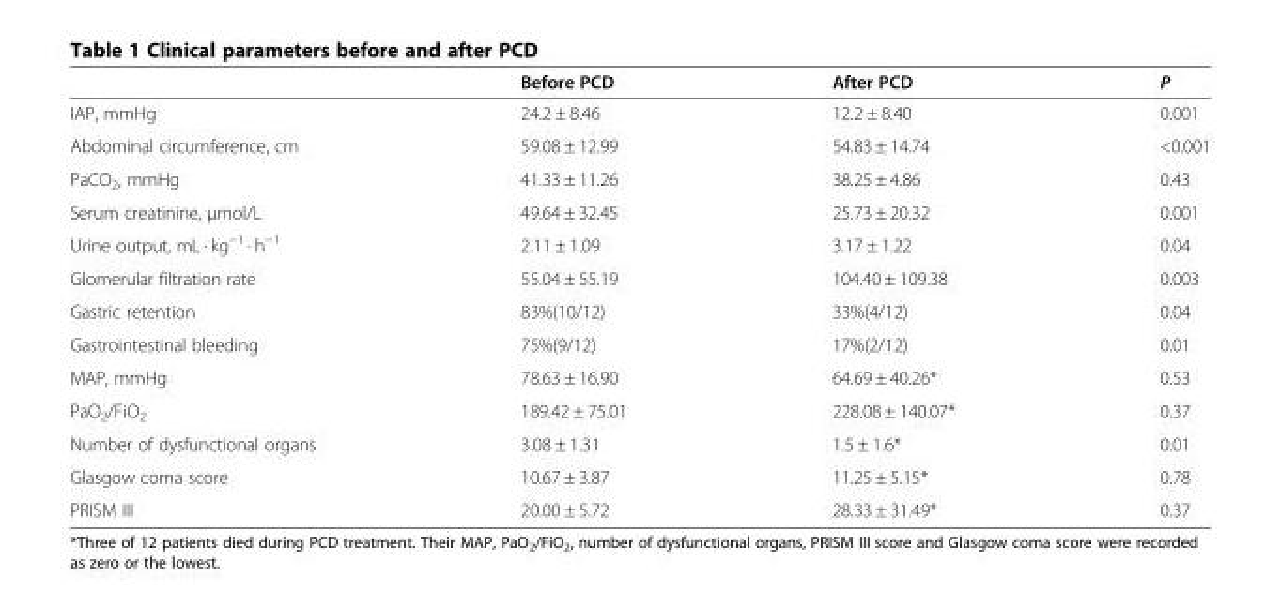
<table><thead><tr><td></td><td>Before PCD</td><td>After PCD</td><td>P</td></tr></thead><tbody><tr><td>IAP, mmHg</td><td>24.2 ± 8.46</td><td>12.2 ± 8.40</td><td>0.001</td></tr><tr><td>Abdominal circumference, cm</td><td>59.08 ± 12.99</td><td>54.83 ± 14.74</td><td>&lt;0.001</td></tr><tr><td>PaCO<sub>2</sub>, mmHg</td><td>41.33 ± 11.26</td><td>38.25 ± 4.86</td><td>0.43</td></tr><tr><td>Serum creatinine, μmol/L</td><td>49.64 ± 32.45</td><td>25.73 ± 20.32</td><td>0.001</td></tr><tr><td>Urine output, mL · kg<sup>−1</sup> · h<sup>−1</sup></td><td>2.11 ± 1.09</td><td>3.17 ± 1.22</td><td>0.04</td></tr><tr><td>Glomerular filtration rate</td><td>55.04 ± 55.19</td><td>104.40 ± 109.38</td><td>0.003</td></tr><tr><td>Gastric retention</td><td>83%(10/12)</td><td>33%(4/12)</td><td>0.04</td></tr><tr><td>Gastrointestinal bleeding</td><td>75%(9/12)</td><td>17%(2/12)</td><td>0.01</td></tr><tr><td>MAP, mmHg</td><td>78.63 ± 16.90</td><td>64.69 ± 40.26*</td><td>0.53</td></tr><tr><td>PaO<sub>2</sub>/FiO<sub>2</sub></td><td>189.42 ± 75.01</td><td>228.08 ± 140.07*</td><td>0.37</td></tr><tr><td>Number of dysfunctional organs</td><td>3.08 ± 1.31</td><td>1.5 ± 1.6*</td><td>0.01</td></tr><tr><td>Glasgow coma score</td><td>10.67 ± 3.87</td><td>11.25 ± 5.15*</td><td>0.78</td></tr><tr><td>PRISM III</td><td>20.00 ± 5.72</td><td>28.33 ± 31.49*</td><td>0.37</td></tr></tbody></table>